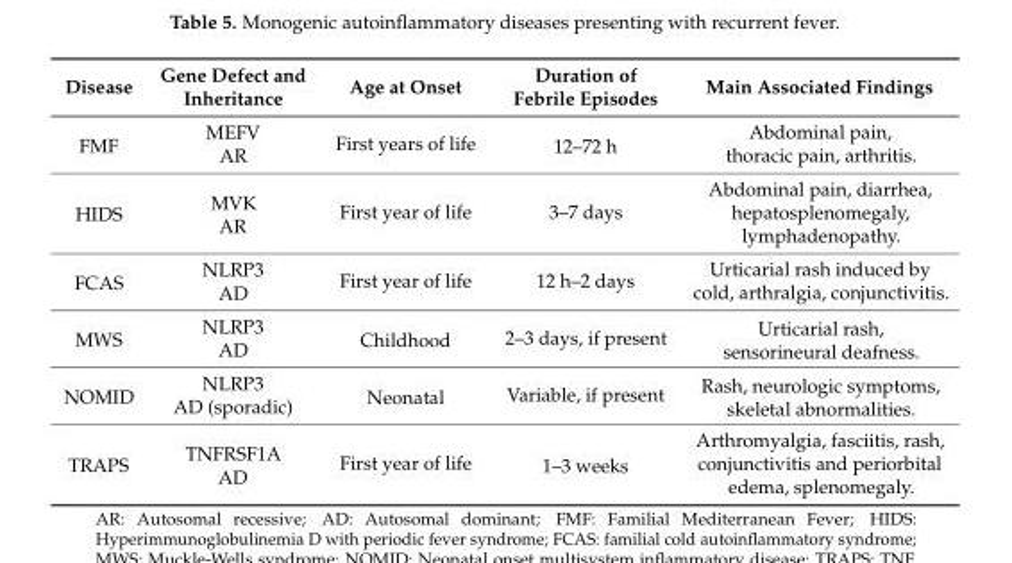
<table><thead><tr><td>Disease</td><td>Gene Defect and Inheritance</td><td>Age at Onset</td><td>Duration of Febrile Episodes</td><td>Main Associated Findings</td></tr></thead><tbody><tr><td rowspan="2">FMF</td><td>MEFV</td><td rowspan="2">First years of life</td><td rowspan="2">12–72 h</td><td rowspan="2">Abdominal pain, thoracic pain, arthritis.</td></tr><tr><td>AR</td></tr><tr><td rowspan="2">HIDS</td><td>MVK</td><td rowspan="2">First year of life</td><td rowspan="2">3–7 days</td><td rowspan="2">Abdominal pain, diarrhea, hepatosplenomegaly, lymphadenopathy.</td></tr><tr><td>AR</td></tr><tr><td rowspan="2">FCAS</td><td>NLRP3</td><td rowspan="2">First year of life</td><td rowspan="2">12 h–2 days</td><td rowspan="2">Urticarial rash induced by cold, arthralgia, conjunctivitis.</td></tr><tr><td>AD</td></tr><tr><td rowspan="2">MWS</td><td>NLRP3</td><td rowspan="2">Childhood</td><td rowspan="2">2–3 days, if present</td><td rowspan="2">Urticarial rash, sensorineural deafness.</td></tr><tr><td>AD</td></tr><tr><td rowspan="2">NOMID</td><td>NLRP3</td><td rowspan="2">Neonatal</td><td rowspan="2">Variable, if present</td><td rowspan="2">Rash, neurologic symptoms, skeletal abnormalities.</td></tr><tr><td>AD (sporadic)</td></tr><tr><td rowspan="2">TRAPS</td><td>TNFRSF1A</td><td rowspan="2">First year of life</td><td rowspan="2">1–3 weeks</td><td rowspan="2">Arthromyalgia, fasciitis, rash, conjunctivitis and periorbital edema, splenomegaly.</td></tr><tr><td>AD</td></tr></tbody></table>